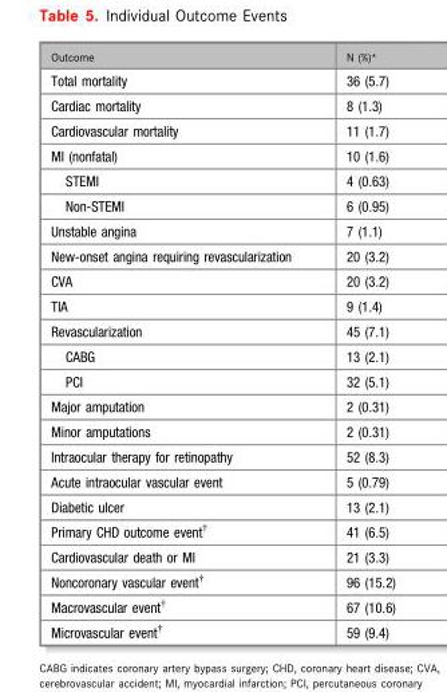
<table><thead><tr><td>Outcome</td><td>N (%)*</td></tr></thead><tbody><tr><td>Total mortality</td><td>36 (5.7)</td></tr><tr><td>Cardiac mortality</td><td>8 (1.3)</td></tr><tr><td>Cardiovascular mortality</td><td>11 (1.7)</td></tr><tr><td>MI (nonfatal)</td><td>10 (1.6)</td></tr><tr><td>STEMI</td><td>4 (0.63)</td></tr><tr><td>Non-STEMI</td><td>6 (0.95)</td></tr><tr><td>Unstable angina</td><td>7 (1.1)</td></tr><tr><td>New-onset angina requiring revascularization</td><td>20 (3.2)</td></tr><tr><td>CVA</td><td>20 (3.2)</td></tr><tr><td>TIA</td><td>9 (1.4)</td></tr><tr><td>Revascularization</td><td>45 (7.1)</td></tr><tr><td>CABG</td><td>13 (2.1)</td></tr><tr><td>PCI</td><td>32 (5.1)</td></tr><tr><td>Major amputation</td><td>2 (0.31)</td></tr><tr><td>Minor amputations</td><td>2 (0.31)</td></tr><tr><td>Intraocular therapy for retinopathy</td><td>52 (8.3)</td></tr><tr><td>Acute intraocular vascular event</td><td>5 (0.79)</td></tr><tr><td>Diabetic ulcer</td><td>13 (2.1)</td></tr><tr><td>Primary CHD outcome event†</td><td>41 (6.5)</td></tr><tr><td>Cardiovascular death or MI</td><td>21 (3.3)</td></tr><tr><td>Noncoronary vascular event†</td><td>96 (15.2)</td></tr><tr><td>Macrovascular event†</td><td>67 (10.6)</td></tr><tr><td>Microvascular event†</td><td>59 (9.4)</td></tr></tbody></table>